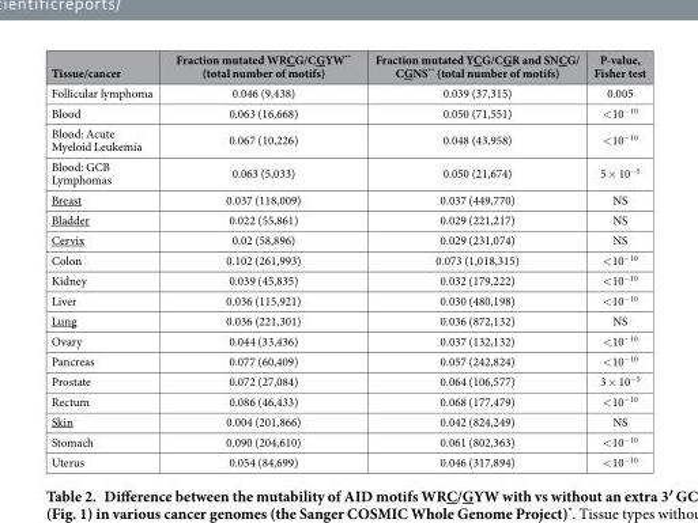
<table><thead><tr><td>Tissue/cancer</td><td>Fraction mutated WRCG/CGYW** (total number of motifs)</td><td>Fraction mutated YCG/CGR and SNCG/ CGNS** (total number of motifs)</td><td>P-value, Fisher test</td></tr></thead><tbody><tr><td>Follicular lymphoma</td><td>0.046 (9,438)</td><td>0.039 (37,315)</td><td>0.005</td></tr><tr><td>Blood</td><td>0.063 (16,668)</td><td>0.050 (71,551)</td><td>&lt; 10<sup>−10</sup></td></tr><tr><td>Blood: Acute Myeloid Leukemia</td><td>0.067 (10,226)</td><td>0.048 (43,958)</td><td>&lt; 10<sup>−10</sup></td></tr><tr><td>Blood: GCB Lymphomas</td><td>0.063 (5,033)</td><td>0.050 (21,674)</td><td>5 × 10<sup>−5</sup></td></tr><tr><td>Breast</td><td>0.037 (118,009)</td><td>0.037 (449,770)</td><td>NS</td></tr><tr><td>Bladder</td><td>0.022 (55,861)</td><td>0.029 (221,217)</td><td>NS</td></tr><tr><td>Cervix</td><td>0.02 (58,896)</td><td>0.029 (231,074)</td><td>NS</td></tr><tr><td>Colon</td><td>0.102 (261,993)</td><td>0.073 (1,018,315)</td><td>&lt; 10<sup>−10</sup></td></tr><tr><td>Kidney</td><td>0.039 (45,835)</td><td>0.032 (179,222)</td><td>&lt; 10<sup>−10</sup></td></tr><tr><td>Liver</td><td>0.036 (115,921)</td><td>0.030 (480,198)</td><td>&lt; 10<sup>−10</sup></td></tr><tr><td>Lung</td><td>0.036 (221,301)</td><td>0.036 (872,132)</td><td>NS</td></tr><tr><td>Ovary</td><td>0.044 (33,436)</td><td>0.037 (132,132)</td><td>&lt; 10<sup>−10</sup></td></tr><tr><td>Pancreas</td><td>0.077 (60,409)</td><td>0.057 (242,824)</td><td>&lt; 10<sup>−10</sup></td></tr><tr><td>Prostate</td><td>0.072 (27,084)</td><td>0.064 (106,577)</td><td>3 × 10<sup>−5</sup></td></tr><tr><td>Rectum</td><td>0.086 (46,433)</td><td>0.068 (177,479)</td><td>&lt; 10<sup>−10</sup></td></tr><tr><td>Skin</td><td>0.004 (201,866)</td><td>0.042 (824,249)</td><td>NS</td></tr><tr><td>Stomach</td><td>0.090 (204,610)</td><td>0.061 (802,363)</td><td>&lt; 10<sup>−10</sup></td></tr><tr><td>Uterus</td><td>0.054 (84,699)</td><td>0.046 (317,894)</td><td>&lt; 10<sup>−10</sup></td></tr></tbody></table>